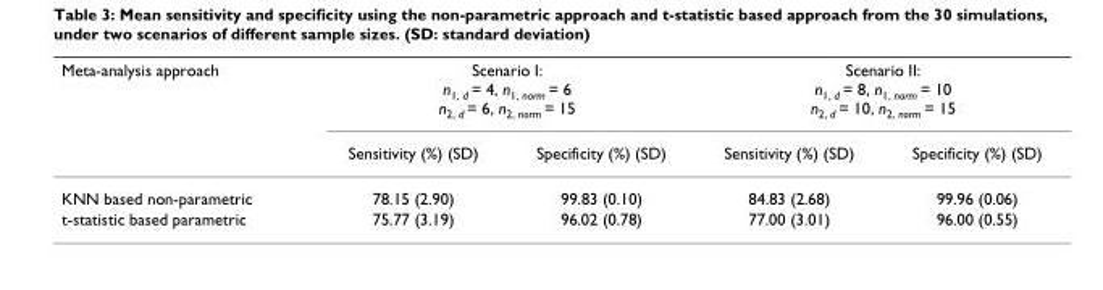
<table><thead><tr><td rowspan="2">Meta-analysis approach</td><td colspan="2">Scenario I: n<sub>1, d</sub> = 4, n<sub>1, norm</sub> = 6 n<sub>2, d</sub> = 6, n<sub>2, norm</sub> = 15</td><td colspan="2">Scenario II: n<sub>1, d</sub> = 8, n<sub>1, norm</sub> = 10 n<sub>2, d</sub> = 10, n<sub>2, norm</sub> = 15</td></tr><tr><td>Sensitivity (%) (SD)</td><td>Specificity (%) (SD)</td><td>Sensitivity (%) (SD)</td><td>Specificity (%) (SD)</td></tr></thead><tbody><tr><td>KNN based non-parametric</td><td>78.15 (2.90)</td><td>99.83 (0.10)</td><td>84.83 (2.68)</td><td>99.96 (0.06)</td></tr><tr><td>t-statistic based parametric</td><td>75.77 (3.19)</td><td>96.02 (0.78)</td><td>77.00 (3.01)</td><td>96.00 (0.55)</td></tr></tbody></table>